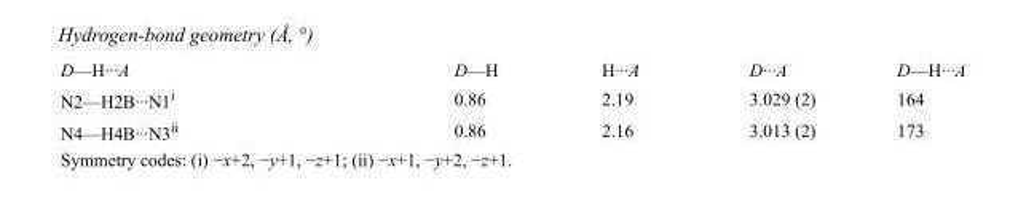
<table><tbody><tr><td>D—H···A</td><td>D—H</td><td>H···A</td><td>D···A</td><td>D—H···A</td></tr><tr><td>N2—H2B···N1<sup>i</sup></td><td>0.86</td><td>2.19</td><td>3.029 (2)</td><td>164</td></tr><tr><td>N4—H4B···N3<sup>ii</sup></td><td>0.86</td><td>2.16</td><td>3.013 (2)</td><td>173</td></tr></tbody></table>